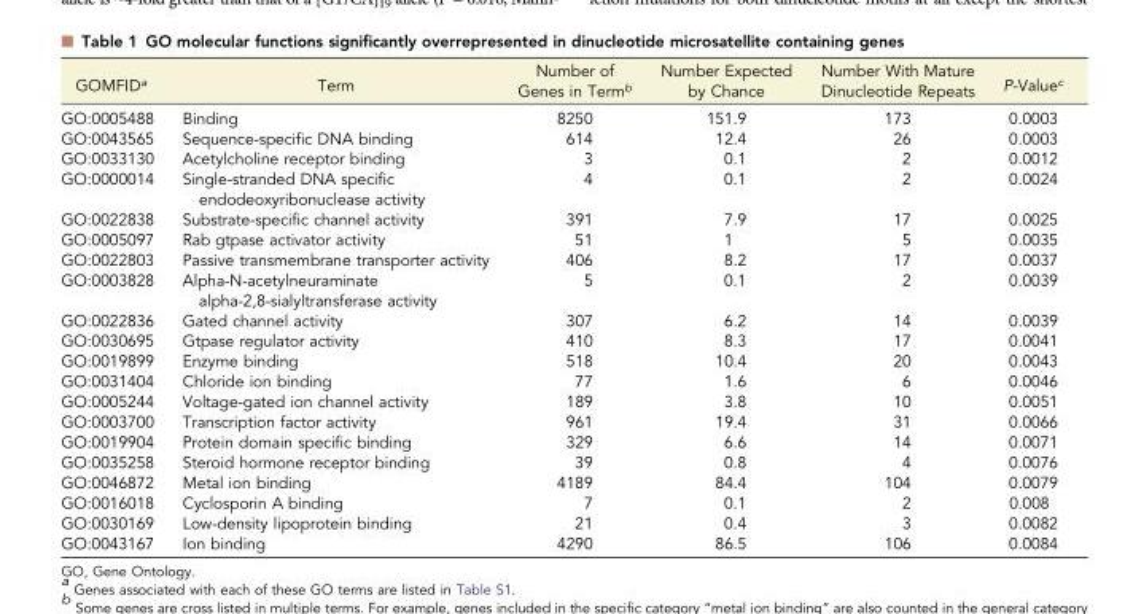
<table><thead><tr><td>GOMFID<sup>a</sup></td><td>Term</td><td>Number of Genes in Term<sup>b</sup></td><td>Number Expected by Chance</td><td>Number With Mature Dinucleotide Repeats</td><td>P-Value<sup>c</sup></td></tr></thead><tbody><tr><td>GO:0005488</td><td>Binding</td><td>8250</td><td>151.9</td><td>173</td><td>0.0003</td></tr><tr><td>GO:0043565</td><td>Sequence-specific DNA binding</td><td>614</td><td>12.4</td><td>26</td><td>0.0003</td></tr><tr><td>GO:0033130</td><td>Acetylcholine receptor binding</td><td>3</td><td>0.1</td><td>2</td><td>0.0012</td></tr><tr><td>GO:0000014</td><td>Single-stranded DNA specific endodeoxyribonuclease activity</td><td>4</td><td>0.1</td><td>2</td><td>0.0024</td></tr><tr><td>GO:0022838</td><td>Substrate-specific channel activity</td><td>391</td><td>7.9</td><td>17</td><td>0.0025</td></tr><tr><td>GO:0005097</td><td>Rab gtpase activator activity</td><td>51</td><td>1</td><td>5</td><td>0.0035</td></tr><tr><td>GO:0022803</td><td>Passive transmembrane transporter activity</td><td>406</td><td>8.2</td><td>17</td><td>0.0037</td></tr><tr><td>GO:0003828</td><td>Alpha-N-acetylneuraminate alpha-2,8-sialyltransferase activity</td><td>5</td><td>0.1</td><td>2</td><td>0.0039</td></tr><tr><td>GO:0022836</td><td>Gated channel activity</td><td>307</td><td>6.2</td><td>14</td><td>0.0039</td></tr><tr><td>GO:0030695</td><td>Gtpase regulator activity</td><td>410</td><td>8.3</td><td>17</td><td>0.0041</td></tr><tr><td>GO:0019899</td><td>Enzyme binding</td><td>518</td><td>10.4</td><td>20</td><td>0.0043</td></tr><tr><td>GO:0031404</td><td>Chloride ion binding</td><td>77</td><td>1.6</td><td>6</td><td>0.0046</td></tr><tr><td>GO:0005244</td><td>Voltage-gated ion channel activity</td><td>189</td><td>3.8</td><td>10</td><td>0.0051</td></tr><tr><td>GO:0003700</td><td>Transcription factor activity</td><td>961</td><td>19.4</td><td>31</td><td>0.0066</td></tr><tr><td>GO:0019904</td><td>Protein domain specific binding</td><td>329</td><td>6.6</td><td>14</td><td>0.0071</td></tr><tr><td>GO:0035258</td><td>Steroid hormone receptor binding</td><td>39</td><td>0.8</td><td>4</td><td>0.0076</td></tr><tr><td>GO:0046872</td><td>Metal ion binding</td><td>4189</td><td>84.4</td><td>104</td><td>0.0079</td></tr><tr><td>GO:0016018</td><td>Cyclosporin A binding</td><td>7</td><td>0.1</td><td>2</td><td>0.008</td></tr><tr><td>GO:0030169</td><td>Low-density lipoprotein binding</td><td>21</td><td>0.4</td><td>3</td><td>0.0082</td></tr><tr><td>GO:0043167</td><td>Ion binding</td><td>4290</td><td>86.5</td><td>106</td><td>0.0084</td></tr></tbody></table>